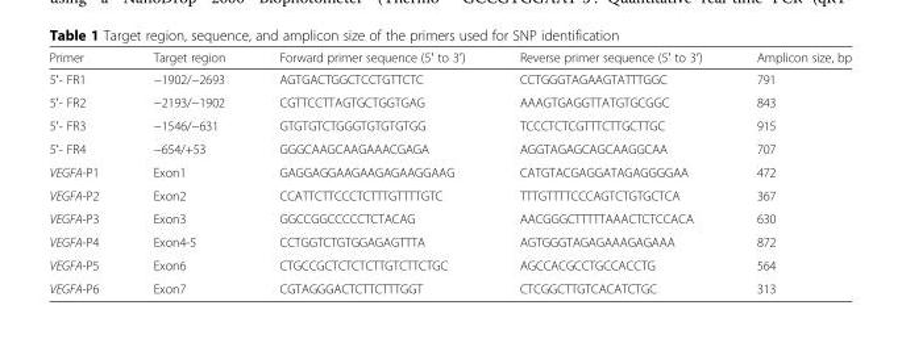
<table><thead><tr><td>Primer</td><td>Target region</td><td>Forward primer sequence (5ʹ to 3ʹ)</td><td>Reverse primer sequence (5ʹ to 3ʹ)</td><td>Amplicon size, bp</td></tr></thead><tbody><tr><td>5ʹ- FR1</td><td>−1902/−2693</td><td>AGTGACTGGCTCCTGTTCTC</td><td>CCTGGGTAGAAGTATTTGGC</td><td>791</td></tr><tr><td>5ʹ- FR2</td><td>−2193/−1902</td><td>CGTTCCTTAGTGCTGGTGAG</td><td>AAAGTGAGGTTATGTGCGGC</td><td>843</td></tr><tr><td>5ʹ- FR3</td><td>−1546/−631</td><td>GTGTGTCTGGGTGTGTGTGG</td><td>TCCCTCTCGTTTCTTGCTTGC</td><td>915</td></tr><tr><td>5ʹ- FR4</td><td>−654/+53</td><td>GGGCAAGCAAGAAACGAGA</td><td>AGGTAGAGCAGCAAGGCAA</td><td>707</td></tr><tr><td>VEGFA-P1</td><td>Exon1</td><td>GAGGAGGAAGAAGAGAAGGAAG</td><td>CATGTACGAGGATAGAGGGGAA</td><td>472</td></tr><tr><td>VEGFA-P2</td><td>Exon2</td><td>CCATTCTTCCCTCTTTGTTTTGTC</td><td>TTTGTTTTCCCAGTCTGTGCTCA</td><td>367</td></tr><tr><td>VEGFA-P3</td><td>Exon3</td><td>GGCCGGCCCCCTCTACAG</td><td>AACGGGCTTTTTAAACTCTCCACA</td><td>630</td></tr><tr><td>VEGFA-P4</td><td>Exon4-5</td><td>CCTGGTCTGTGGAGAGTTTA</td><td>AGTGGGTAGAGAAAGAGAAA</td><td>872</td></tr><tr><td>VEGFA-P5</td><td>Exon6</td><td>CTGCCGCTCTCTCTTGTCTTCTGC</td><td>AGCCACGCCTGCCACCTG</td><td>564</td></tr><tr><td>VEGFA-P6</td><td>Exon7</td><td>CGTAGGGACTCTTCTTTGGT</td><td>CTCGGCTTGTCACATCTGC</td><td>313</td></tr></tbody></table>